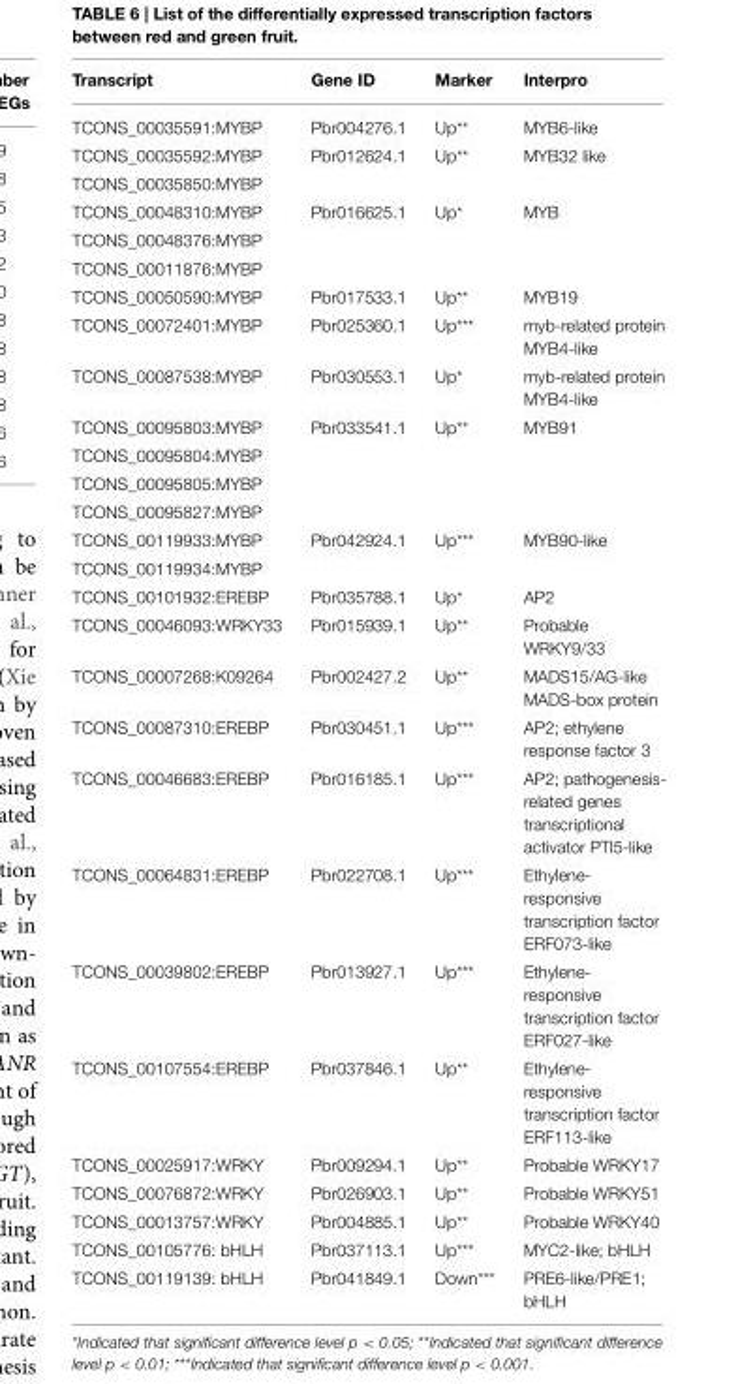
<table><thead><tr><td>Transcript</td><td>Gene ID</td><td>Marker</td><td>Interpro</td></tr></thead><tbody><tr><td>TCONS_00035591:MYBP</td><td>Pbr004276.1</td><td>Up**</td><td>MYB6-like</td></tr><tr><td>TCONS_00035592:MYBP</td><td>Pbr012624.1</td><td>Up**</td><td>MYB32 like</td></tr><tr><td colspan="4">TCONS_00035850:MYBP</td></tr><tr><td>TCONS_00048310:MYBP</td><td>Pbr016625.1</td><td>Up*</td><td>MYB</td></tr><tr><td colspan="4">TCONS_00048376:MYBP</td></tr><tr><td colspan="4">TCONS_00011876:MYBP</td></tr><tr><td>TCONS_00050590:MYBP</td><td>Pbr017533.1</td><td>Up**</td><td>MYB19</td></tr><tr><td>TCONS_00072401:MYBP</td><td>Pbr025360.1</td><td>Up***</td><td>myb-related protein MYB4-like</td></tr><tr><td>TCONS_00087538:MYBP</td><td>Pbr030553.1</td><td>Up*</td><td>myb-related protein MYB4-like</td></tr><tr><td>TCONS_00095803:MYBP</td><td>Pbr033541.1</td><td>Up**</td><td>MYB91</td></tr><tr><td colspan="4">TCONS_00095804:MYBP</td></tr><tr><td colspan="4">TCONS_00095805:MYBP</td></tr><tr><td colspan="4">TCONS_00095827:MYBP</td></tr><tr><td>TCONS_00119933:MYBP</td><td>Pbr042924.1</td><td>Up***</td><td>MYB90-like</td></tr><tr><td colspan="4">TCONS_00119934:MYBP</td></tr><tr><td>TCONS_00101932:EREBP</td><td>Pbr035788.1</td><td>Up*</td><td>AP2</td></tr><tr><td>TCONS_00046093:WRKY33</td><td>Pbr015939.1</td><td>Up**</td><td>Probable WRKY9/33</td></tr><tr><td>TCONS_00007268:K09264</td><td>Pbr002427.2</td><td>Up**</td><td>MADS15/AG-like MADS-box protein</td></tr><tr><td>TCONS_00087310:EREBP</td><td>Pbr030451.1</td><td>Up***</td><td>AP2; ethylene response factor 3</td></tr><tr><td>TCONS_00046683:EREBP</td><td>Pbr016185.1</td><td>Up***</td><td>AP2; pathogenesis- related genes transcriptional activator PTI5-like</td></tr><tr><td>TCONS_00064831:EREBP</td><td>Pbr022708.1</td><td>Up***</td><td>Ethylene- responsive transcription factor ERF073-like</td></tr><tr><td>TCONS_00039802:EREBP</td><td>Pbr013927.1</td><td>Up***</td><td>Ethylene- responsive transcription factor ERF027-like</td></tr><tr><td>TCONS_00107554:EREBP</td><td>Pbr037846.1</td><td>Up**</td><td>Ethylene- responsive transcription factor ERF113-like</td></tr><tr><td>TCONS_00025917:WRKY</td><td>Pbr009294.1</td><td>Up**</td><td>Probable WRKY17</td></tr><tr><td>TCONS_00076872:WRKY</td><td>Pbr026903.1</td><td>Up**</td><td>Probable WRKY51</td></tr><tr><td>TCONS_00013757:WRKY</td><td>Pbr004885.1</td><td>Up**</td><td>Probable WRKY40</td></tr><tr><td>TCONS_00105776: bHLH</td><td>Pbr037113.1</td><td>Up***</td><td>MYC2-like; bHLH</td></tr><tr><td>TCONS_00119139: bHLH</td><td>Pbr041849.1</td><td>Down***</td><td>PRE6-like/PRE1; bHLH</td></tr></tbody></table>